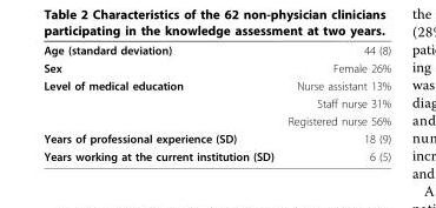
<table><tbody><tr><td>Age (standard deviation)</td><td>44 (8)</td></tr><tr><td>Sex</td><td>Female 26%</td></tr><tr><td rowspan="3">Level of medical education</td><td>Nurse assistant 13%</td></tr><tr><td>Staff nurse 31%</td></tr><tr><td>Registered nurse 56%</td></tr><tr><td>Years of professional experience (SD)</td><td>18 (9)</td></tr><tr><td>Years working at the current institution (SD)</td><td>6 (5)</td></tr></tbody></table>